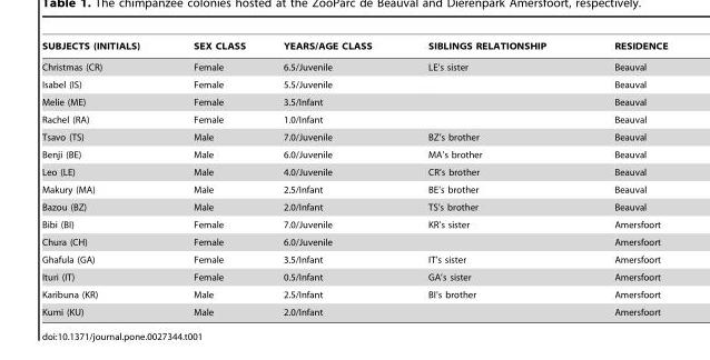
<table><thead><tr><td>SUBJECTS (INITIALS)</td><td>SEX CLASS</td><td>YEARS/AGE CLASS</td><td>SIBLINGS RELATIONSHIP</td><td>RESIDENCE</td></tr></thead><tbody><tr><td>Christmas (CR)</td><td>Female</td><td>6.5/Juvenile</td><td>LE’s sister</td><td>Beauval</td></tr><tr><td>Isabel (IS)</td><td>Female</td><td>5.5/Juvenile</td><td></td><td>Beauval</td></tr><tr><td>Melie (ME)</td><td>Female</td><td>3.5/Infant</td><td></td><td>Beauval</td></tr><tr><td>Rachel (RA)</td><td>Female</td><td>1.0/Infant</td><td></td><td>Beauval</td></tr><tr><td>Tsavo (TS)</td><td>Male</td><td>7.0/Juvenile</td><td>BZ’s brother</td><td>Beauval</td></tr><tr><td>Benji (BE)</td><td>Male</td><td>6.0/Juvenile</td><td>MA’s brother</td><td>Beauval</td></tr><tr><td>Leo (LE)</td><td>Male</td><td>4.0/Juvenile</td><td>CR’s brother</td><td>Beauval</td></tr><tr><td>Makury (MA)</td><td>Male</td><td>2.5/Infant</td><td>BE’s brother</td><td>Beauval</td></tr><tr><td>Bazou (BZ)</td><td>Male</td><td>2.0/Infant</td><td>TS’s brother</td><td>Beauval</td></tr><tr><td>Bibi (BI)</td><td>Female</td><td>7.0/Juvenile</td><td>KR’s sister</td><td>Amersfoort</td></tr><tr><td>Chura (CH)</td><td>Female</td><td>6.0/Juvenile</td><td></td><td>Amersfoort</td></tr><tr><td>Ghafula (GA)</td><td>Female</td><td>3.5/Infant</td><td>IT’s sister</td><td>Amersfoort</td></tr><tr><td>Ituri (IT)</td><td>Female</td><td>0.5/Infant</td><td>GA’s sister</td><td>Amersfoort</td></tr><tr><td>Karibuna (KR)</td><td>Male</td><td>2.5/Infant</td><td>BI’s brother</td><td>Amersfoort</td></tr><tr><td>Kumi (KU)</td><td>Male</td><td>2.0/Infant</td><td></td><td>Amersfoort</td></tr></tbody></table>